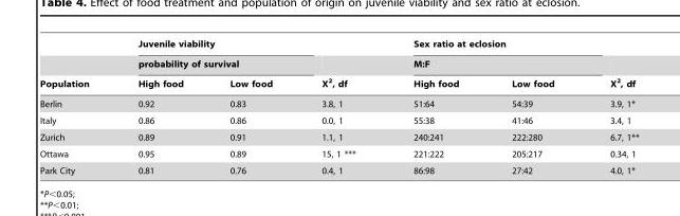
<table><thead><tr><td rowspan="3">Population</td><td rowspan="2" colspan="2">Juvenile viability probability of survival</td><td rowspan="3">X<sup>2</sup>, df</td><td rowspan="2" colspan="2">Sex ratio at eclosion M:F</td><td rowspan="3">X<sup>2</sup>, df</td></tr><tr></tr><tr><td>High food</td><td>Low food</td><td>High food</td><td>Low food</td></tr></thead><tbody><tr><td>Berlin</td><td>0.92</td><td>0.83</td><td>3.8, 1</td><td>51:64</td><td>54:39</td><td>3.9, 1*</td></tr><tr><td>Italy</td><td>0.86</td><td>0.86</td><td>0.0, 1</td><td>55:38</td><td>41:46</td><td>3.4, 1</td></tr><tr><td>Zurich</td><td>0.89</td><td>0.91</td><td>1.1, 1</td><td>240:241</td><td>222:280</td><td>6.7, 1**</td></tr><tr><td>Ottawa</td><td>0.95</td><td>0.89</td><td>15, 1 ***</td><td>221:222</td><td>205:217</td><td>0.34, 1</td></tr><tr><td>Park City</td><td>0.81</td><td>0.76</td><td>0.4, 1</td><td>86:98</td><td>27:42</td><td>4.0, 1*</td></tr></tbody></table>